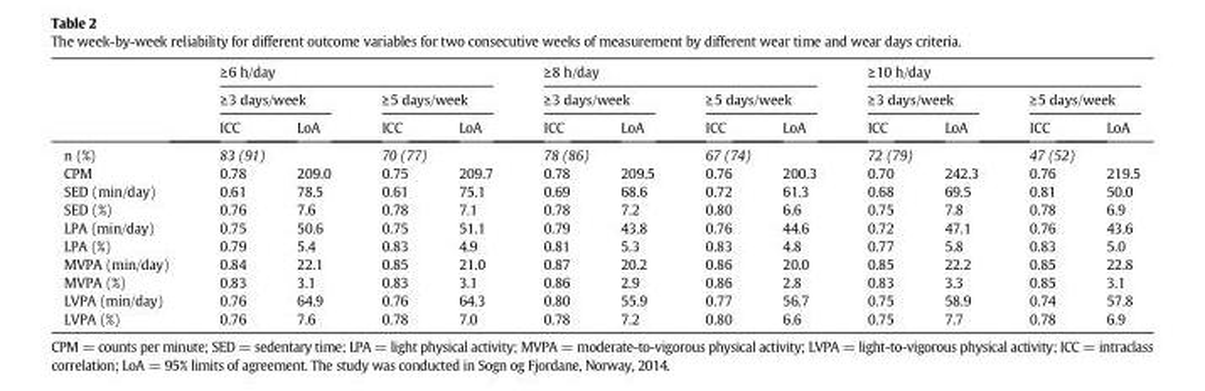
<table><thead><tr><td rowspan="3"></td><td colspan="4">≥6 h/day</td><td colspan="4">≥8 h/day</td><td colspan="4">≥10 h/day</td></tr><tr><td colspan="2">≥3 days/week</td><td colspan="2">≥5 days/week</td><td colspan="2">≥3 days/week</td><td colspan="2">≥5 days/week</td><td colspan="2">≥3 days/week</td><td colspan="2">≥5 days/week</td></tr><tr><td>ICC</td><td>LoA</td><td>ICC</td><td>LoA</td><td>ICC</td><td>LoA</td><td>ICC</td><td>LoA</td><td>ICC</td><td>LoA</td><td>ICC</td><td>LoA</td></tr></thead><tbody><tr><td>n (%)</td><td colspan="2">83 (91)</td><td colspan="2">70 (77)</td><td colspan="2">78 (86)</td><td colspan="2">67 (74)</td><td colspan="2">72 (79)</td><td colspan="2">47 (52)</td></tr><tr><td>CPM</td><td>0.78</td><td>209.0</td><td>0.75</td><td>209.7</td><td>0.78</td><td>209.5</td><td>0.76</td><td>200.3</td><td>0.70</td><td>242.3</td><td>0.76</td><td>219.5</td></tr><tr><td>SED (min/day)</td><td>0.61</td><td>78.5</td><td>0.61</td><td>75.1</td><td>0.69</td><td>68.6</td><td>0.72</td><td>61.3</td><td>0.68</td><td>69.5</td><td>0.81</td><td>50.0</td></tr><tr><td>SED (%)</td><td>0.76</td><td>7.6</td><td>0.78</td><td>7.1</td><td>0.78</td><td>7.2</td><td>0.80</td><td>6.6</td><td>0.75</td><td>7.8</td><td>0.78</td><td>6.9</td></tr><tr><td>LPA (min/day)</td><td>0.75</td><td>50.6</td><td>0.75</td><td>51.1</td><td>0.79</td><td>43.8</td><td>0.76</td><td>44.6</td><td>0.72</td><td>47.1</td><td>0.76</td><td>43.6</td></tr><tr><td>LPA (%)</td><td>0.79</td><td>5.4</td><td>0.83</td><td>4.9</td><td>0.81</td><td>5.3</td><td>0.83</td><td>4.8</td><td>0.77</td><td>5.8</td><td>0.83</td><td>5.0</td></tr><tr><td>MVPA (min/day)</td><td>0.84</td><td>22.1</td><td>0.85</td><td>21.0</td><td>0.87</td><td>20.2</td><td>0.86</td><td>20.0</td><td>0.85</td><td>22.2</td><td>0.85</td><td>22.8</td></tr><tr><td>MVPA (%)</td><td>0.83</td><td>3.1</td><td>0.83</td><td>3.1</td><td>0.86</td><td>2.9</td><td>0.86</td><td>2.8</td><td>0.83</td><td>3.3</td><td>0.85</td><td>3.1</td></tr><tr><td>LVPA (min/day)</td><td>0.76</td><td>64.9</td><td>0.76</td><td>64.3</td><td>0.80</td><td>55.9</td><td>0.77</td><td>56.7</td><td>0.75</td><td>58.9</td><td>0.74</td><td>57.8</td></tr><tr><td>LVPA (%)</td><td>0.76</td><td>7.6</td><td>0.78</td><td>7.0</td><td>0.78</td><td>7.2</td><td>0.80</td><td>6.6</td><td>0.75</td><td>7.7</td><td>0.78</td><td>6.9</td></tr></tbody></table>